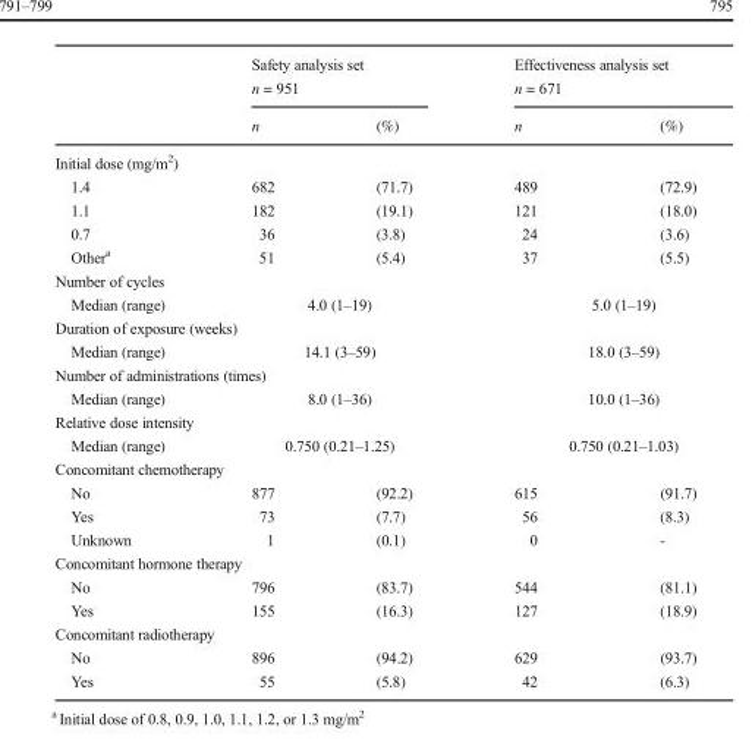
<table><thead><tr><td rowspan="2"></td><td colspan="2">Safety analysis set n = 951</td><td colspan="2">Effectiveness analysis set n = 671</td></tr><tr><td>n</td><td>(%)</td><td>n</td><td>(%)</td></tr></thead><tbody><tr><td colspan="5">Initial dose (mg/m<sup>2</sup>)</td></tr><tr><td>1.4</td><td>682</td><td>(71.7)</td><td>489</td><td>(72.9)</td></tr><tr><td>1.1</td><td>182</td><td>(19.1)</td><td>121</td><td>(18.0)</td></tr><tr><td>0.7</td><td>36</td><td>(3.8)</td><td>24</td><td>(3.6)</td></tr><tr><td>Other<sup>a</sup></td><td>51</td><td>(5.4)</td><td>37</td><td>(5.5)</td></tr><tr><td colspan="5">Number of cycles</td></tr><tr><td>Median (range)</td><td colspan="2">4.0 (1–19)</td><td colspan="2">5.0 (1–19)</td></tr><tr><td colspan="5">Duration of exposure (weeks)</td></tr><tr><td>Median (range)</td><td colspan="2">14.1 (3–59)</td><td colspan="2">18.0 (3–59)</td></tr><tr><td colspan="5">Number of administrations (times)</td></tr><tr><td>Median (range)</td><td colspan="2">8.0 (1–36)</td><td colspan="2">10.0 (1–36)</td></tr><tr><td colspan="5">Relative dose intensity</td></tr><tr><td>Median (range)</td><td colspan="2">0.750 (0.21–1.25)</td><td colspan="2">0.750 (0.21–1.03)</td></tr><tr><td colspan="5">Concomitant chemotherapy</td></tr><tr><td>No</td><td>877</td><td>(92.2)</td><td>615</td><td>(91.7)</td></tr><tr><td>Yes</td><td>73</td><td>(7.7)</td><td>56</td><td>(8.3)</td></tr><tr><td>Unknown</td><td>1</td><td>(0.1)</td><td>0</td><td>-</td></tr><tr><td colspan="5">Concomitant hormone therapy</td></tr><tr><td>No</td><td>796</td><td>(83.7)</td><td>544</td><td>(81.1)</td></tr><tr><td>Yes</td><td>155</td><td>(16.3)</td><td>127</td><td>(18.9)</td></tr><tr><td colspan="5">Concomitant radiotherapy</td></tr><tr><td>No</td><td>896</td><td>(94.2)</td><td>629</td><td>(93.7)</td></tr><tr><td>Yes</td><td>55</td><td>(5.8)</td><td>42</td><td>(6.3)</td></tr></tbody></table>